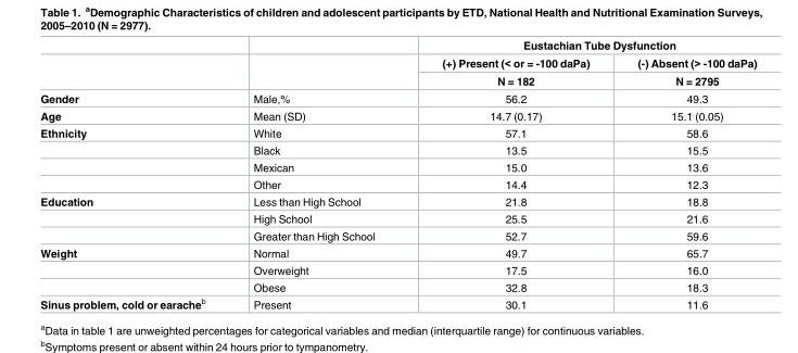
<table><thead><tr><td rowspan="3"></td><td rowspan="3"></td><td colspan="2">Eustachian Tube Dysfunction</td></tr><tr><td rowspan="2">(+) Present (&lt; or = -100 daPa) N = 182</td><td rowspan="2">(-) Absent (&gt; -100 daPa) N = 2795</td></tr><tr></tr></thead><tbody><tr><td>Gender</td><td>Male,%</td><td>56.2</td><td>49.3</td></tr><tr><td>Age</td><td>Mean (SD)</td><td>14.7 (0.17)</td><td>15.1 (0.05)</td></tr><tr><td rowspan="4">Ethnicity</td><td>White</td><td>57.1</td><td>58.6</td></tr><tr><td>Black</td><td>13.5</td><td>15.5</td></tr><tr><td>Mexican</td><td>15.0</td><td>13.6</td></tr><tr><td>Other</td><td>14.4</td><td>12.3</td></tr><tr><td rowspan="3">Education</td><td>Less than High School</td><td>21.8</td><td>18.8</td></tr><tr><td>High School</td><td>25.5</td><td>21.6</td></tr><tr><td>Greater than High School</td><td>52.7</td><td>59.6</td></tr><tr><td rowspan="3">Weight</td><td>Normal</td><td>49.7</td><td>65.7</td></tr><tr><td>Overweight</td><td>17.5</td><td>16.0</td></tr><tr><td>Obese</td><td>32.8</td><td>18.3</td></tr><tr><td>Sinus problem, cold or earache<sup>b</sup></td><td>Present</td><td>30.1</td><td>11.6</td></tr></tbody></table>